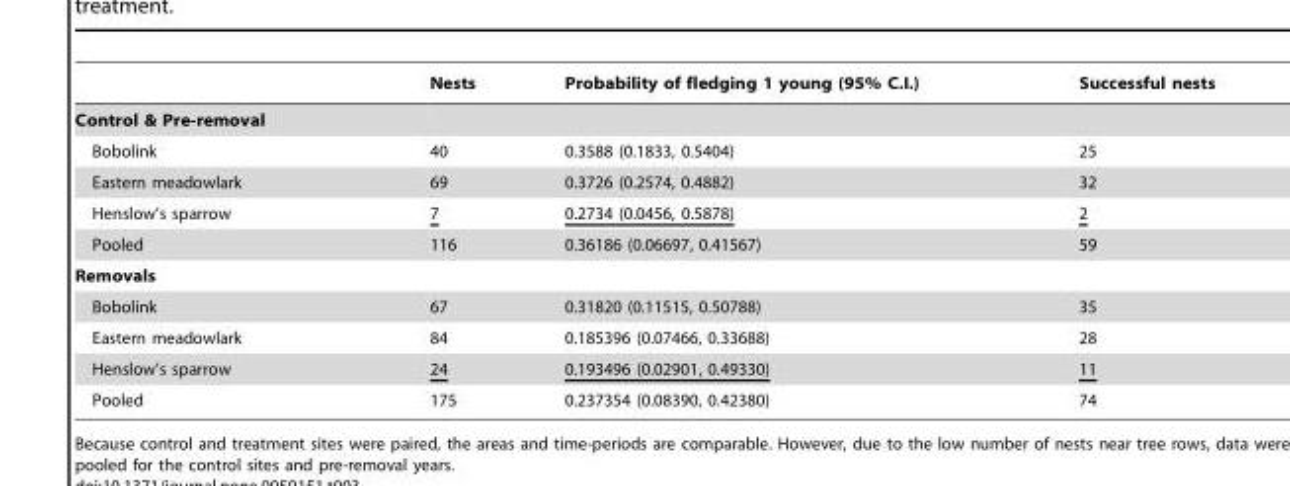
<table><thead><tr><td></td><td>Nests</td><td>Probability of fledging 1 young (95% C.I.)</td><td>Successful nests</td></tr></thead><tbody><tr><td colspan="4">Control &amp; Pre-removal</td></tr><tr><td>Bobolink</td><td>40</td><td>0.3588 (0.1833, 0.5404)</td><td>25</td></tr><tr><td>Eastern meadowlark</td><td>69</td><td>0.3726 (0.2574, 0.4882)</td><td>32</td></tr><tr><td>Henslow’s sparrow</td><td>7</td><td>0.2734 (0.0456, 0.5878)</td><td>2</td></tr><tr><td>Pooled</td><td>116</td><td>0.36186 (0.06697, 0.41567)</td><td>59</td></tr><tr><td colspan="4">Removals</td></tr><tr><td>Bobolink</td><td>67</td><td>0.31820 (0.11515, 0.50788)</td><td>35</td></tr><tr><td>Eastern meadowlark</td><td>84</td><td>0.185396 (0.07466, 0.33688)</td><td>28</td></tr><tr><td>Henslow’s sparrow</td><td>24</td><td>0.193496 (0.02901, 0.49330)</td><td>11</td></tr><tr><td>Pooled</td><td>175</td><td>0.237354 (0.08390, 0.42380)</td><td>74</td></tr></tbody></table>